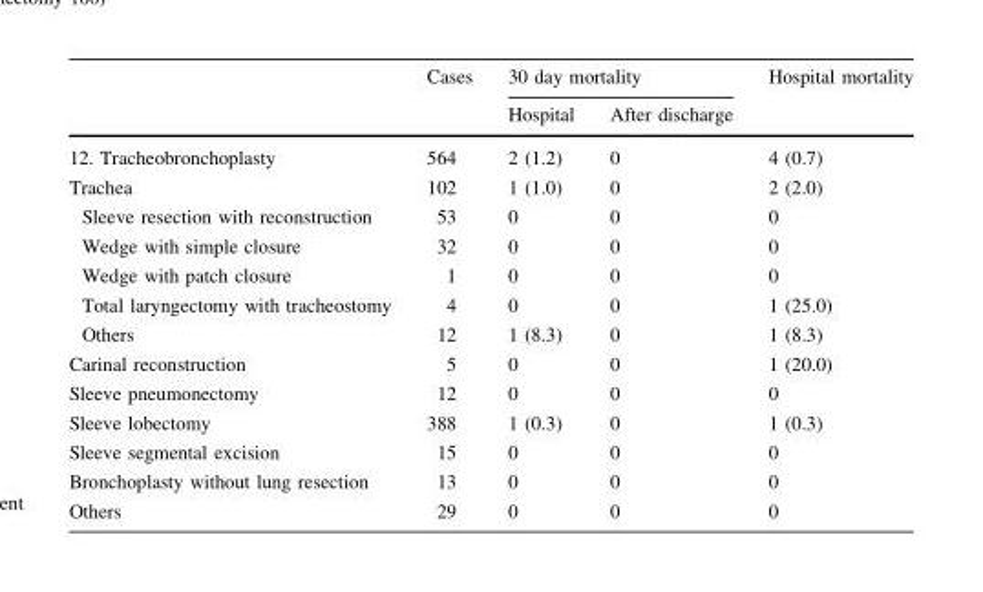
<table><thead><tr><td rowspan="2"></td><td rowspan="2">Cases</td><td colspan="2">30 day mortality</td><td rowspan="2">Hospital mortality</td></tr><tr><td>Hospital</td><td>After discharge</td></tr></thead><tbody><tr><td>12. Tracheobronchoplasty</td><td>564</td><td>2 (1.2)</td><td>0</td><td>4 (0.7)</td></tr><tr><td>Trachea</td><td>102</td><td>1 (1.0)</td><td>0</td><td>2 (2.0)</td></tr><tr><td>Sleeve resection with reconstruction</td><td>53</td><td>0</td><td>0</td><td>0</td></tr><tr><td>Wedge with simple closure</td><td>32</td><td>0</td><td>0</td><td>0</td></tr><tr><td>Wedge with patch closure</td><td>1</td><td>0</td><td>0</td><td>0</td></tr><tr><td>Total laryngectomy with tracheostomy</td><td>4</td><td>0</td><td>0</td><td>1 (25.0)</td></tr><tr><td>Others</td><td>12</td><td>1 (8.3)</td><td>0</td><td>1 (8.3)</td></tr><tr><td>Carinal reconstruction</td><td>5</td><td>0</td><td>0</td><td>1 (20.0)</td></tr><tr><td>Sleeve pneumonectomy</td><td>12</td><td>0</td><td>0</td><td>0</td></tr><tr><td>Sleeve lobectomy</td><td>388</td><td>1 (0.3)</td><td>0</td><td>1 (0.3)</td></tr><tr><td>Sleeve segmental excision</td><td>15</td><td>0</td><td>0</td><td>0</td></tr><tr><td>Bronchoplasty without lung resection</td><td>13</td><td>0</td><td>0</td><td>0</td></tr><tr><td>Others</td><td>29</td><td>0</td><td>0</td><td>0</td></tr></tbody></table>